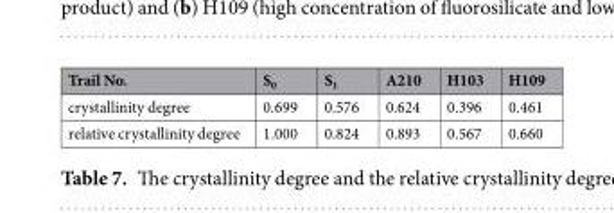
<table><thead><tr><td>Trail No.</td><td>S<sub>0</sub></td><td>S<sub>1</sub></td><td>A210</td><td>H103</td><td>H109</td></tr></thead><tbody><tr><td>crystallinity degree</td><td>0.699</td><td>0.576</td><td>0.624</td><td>0.396</td><td>0.461</td></tr><tr><td>relative crystallinity degree</td><td>1.000</td><td>0.824</td><td>0.893</td><td>0.567</td><td>0.660</td></tr></tbody></table>